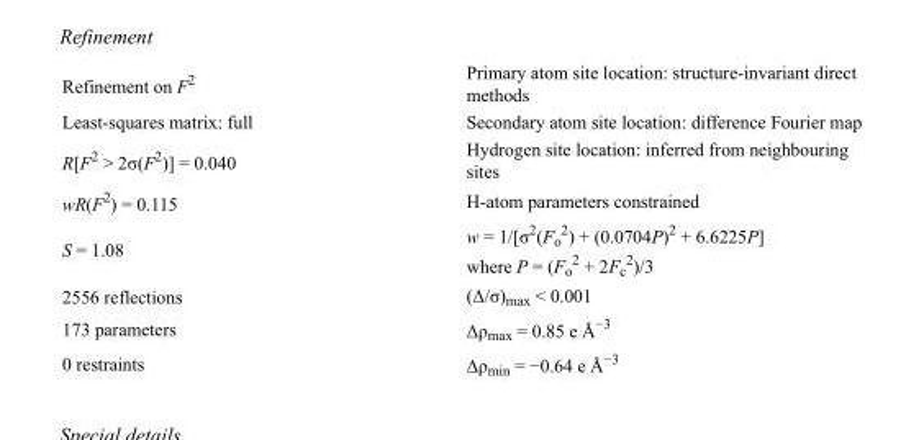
<table><tbody><tr><td>Refinement on F<sup>2</sup></td><td>Primary atom site location: structure-invariant direct methods</td></tr><tr><td>Least-squares matrix: full</td><td>Secondary atom site location: difference Fourier map</td></tr><tr><td>R[F<sup>2</sup> &gt; 2σ(F<sup>2</sup>)] = 0.040</td><td>Hydrogen site location: inferred from neighbouring sites</td></tr><tr><td>wR(F<sup>2</sup>) = 0.115</td><td>H-atom parameters constrained</td></tr><tr><td>S = 1.08</td><td>w = 1/[σ<sup>2</sup>(F<sub>o</sub> <sup>2</sup>) + (0.0704P)<sup>2</sup> + 6.6225P] where P = (F<sub>o</sub> <sup>2</sup> + 2F<sub>c</sub> <sup>2</sup>)/3</td></tr><tr><td>2556 reflections</td><td>(Δ/σ)<sub>max</sub> &lt; 0.001</td></tr><tr><td>173 parameters</td><td>Δρ<sub>max</sub> = 0.85 e Å<sup>−3</sup></td></tr><tr><td>0 restraints</td><td>Δρ<sub>min</sub> = −0.64 e Å<sup>−3</sup></td></tr></tbody></table>